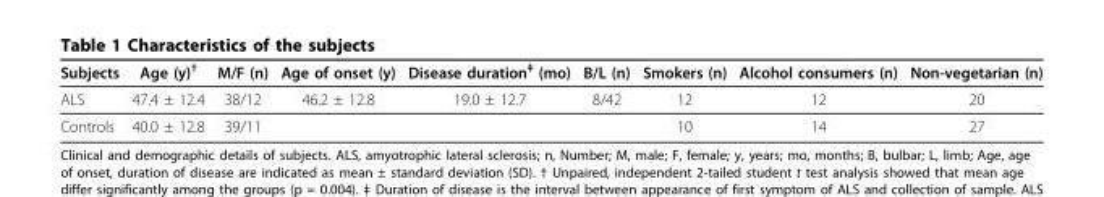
<table><thead><tr><td>Subjects</td><td>Age (y)<sup>†</sup></td><td>M/F (n)</td><td>Age of onset (y)</td><td>Disease duration<sup>‡</sup> (mo)</td><td>B/L (n)</td><td>Smokers (n)</td><td>Alcohol consumers (n)</td><td>Non-vegetarian (n)</td></tr></thead><tbody><tr><td>ALS</td><td>47.4 ± 12.4</td><td>38/12</td><td>46.2 ± 12.8</td><td>19.0 ± 12.7</td><td>8/42</td><td>12</td><td>12</td><td>20</td></tr><tr><td>Controls</td><td>40.0 ± 12.8</td><td>39/11</td><td></td><td></td><td></td><td>10</td><td>14</td><td>27</td></tr></tbody></table>